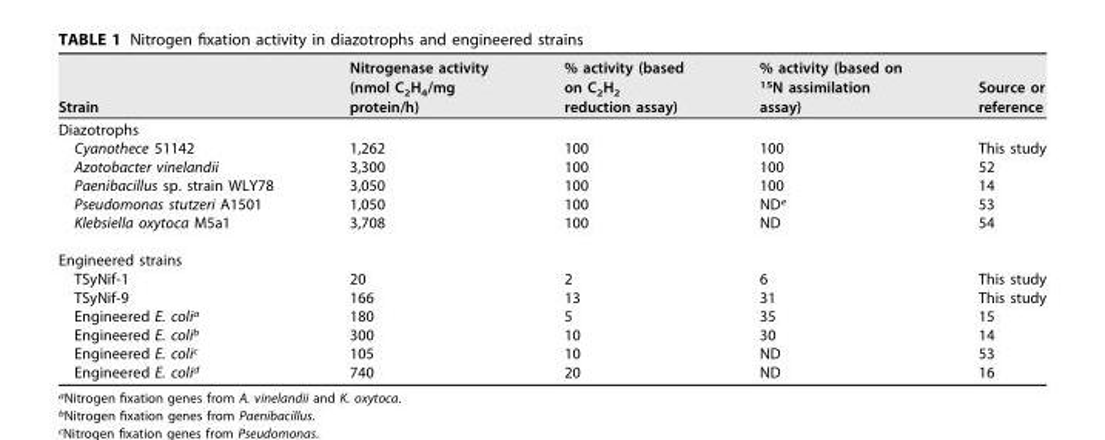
<table><thead><tr><td>Strain</td><td>Nitrogenase activity (nmol C<sub>2</sub>H<sub>4</sub>/mg protein/h)</td><td>% activity (based on C<sub>2</sub>H<sub>2</sub> reduction assay)</td><td>% activity (based on <sup>15</sup>N assimilation assay)</td><td>Source or reference</td></tr></thead><tbody><tr><td colspan="5">Diazotrophs</td></tr><tr><td>Cyanothece 51142</td><td>1,262</td><td>100</td><td>100</td><td>This study</td></tr><tr><td>Azotobacter vinelandii</td><td>3,300</td><td>100</td><td>100</td><td>52</td></tr><tr><td>Paenibacillus sp. strain WLY78</td><td>3,050</td><td>100</td><td>100</td><td>14</td></tr><tr><td>Pseudomonas stutzeri A1501</td><td>1,050</td><td>100</td><td>ND<sup>e</sup></td><td>53</td></tr><tr><td>Klebsiella oxytoca M5a1</td><td>3,708</td><td>100</td><td>ND</td><td>54</td></tr><tr><td colspan="5">Engineered strains</td></tr><tr><td>TSyNif-1</td><td>20</td><td>2</td><td>6</td><td>This study</td></tr><tr><td>TSyNif-9</td><td>166</td><td>13</td><td>31</td><td>This study</td></tr><tr><td>Engineered E. coli<sup>a</sup></td><td>180</td><td>5</td><td>35</td><td>15</td></tr><tr><td>Engineered E. coli<sup>b</sup></td><td>300</td><td>10</td><td>30</td><td>14</td></tr><tr><td>Engineered E. coli<sup>c</sup></td><td>105</td><td>10</td><td>ND</td><td>53</td></tr><tr><td>Engineered E. coli<sup>d</sup></td><td>740</td><td>20</td><td>ND</td><td>16</td></tr></tbody></table>